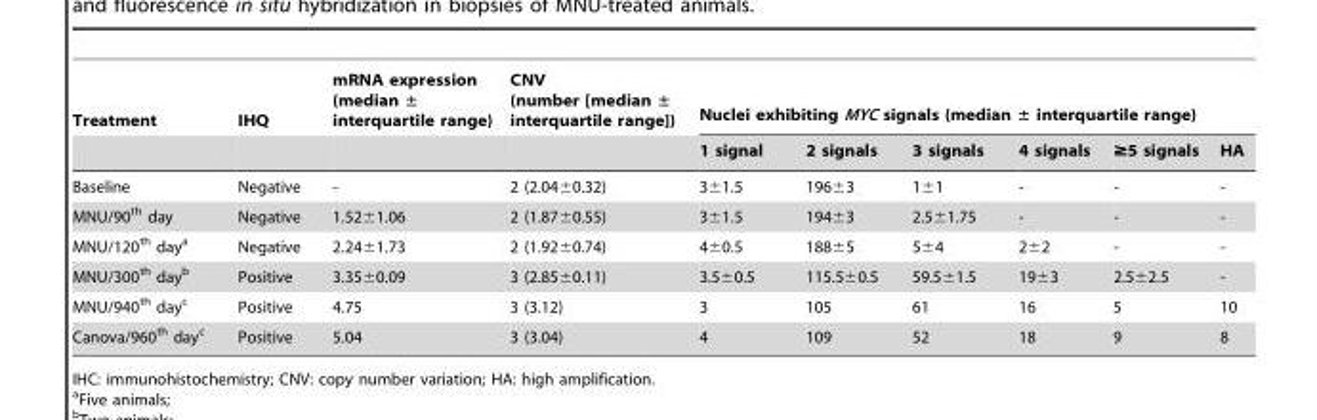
<table><thead><tr><td rowspan="2">Treatment</td><td rowspan="2">IHQ</td><td rowspan="2">mRNA expression (median ± interquartile range)</td><td rowspan="2">CNV (number [median ± interquartile range])</td><td colspan="6">Nuclei exhibiting MYC signals (median ± interquartile range)</td></tr><tr><td>1 signal</td><td>2 signals</td><td>3 signals</td><td>4 signals</td><td>≥5 signals</td><td>HA</td></tr></thead><tbody><tr><td>Baseline</td><td>Negative</td><td>-</td><td>2 (2.04±0.32)</td><td>3±1.5</td><td>196±3</td><td>1±1</td><td>-</td><td>-</td><td>-</td></tr><tr><td>MNU/90<sup>th</sup> day</td><td>Negative</td><td>1.52±1.06</td><td>2 (1.87±0.55)</td><td>3±1.5</td><td>194±3</td><td>2.5±1.75</td><td>-</td><td>-</td><td>-</td></tr><tr><td>MNU/120<sup>th</sup> day<sup>a</sup></td><td>Negative</td><td>2.24±1.73</td><td>2 (1.92±0.74)</td><td>4±0.5</td><td>188±5</td><td>5±4</td><td>2±2</td><td>-</td><td>-</td></tr><tr><td>MNU/300<sup>th</sup> day<sup>b</sup></td><td>Positive</td><td>3.35±0.09</td><td>3 (2.85±0.11)</td><td>3.5±0.5</td><td>115.5±0.5</td><td>59.5±1.5</td><td>19±3</td><td>2.5±2.5</td><td>-</td></tr><tr><td>MNU/940<sup>th</sup> day<sup>c</sup></td><td>Positive</td><td>4.75</td><td>3 (3.12)</td><td>3</td><td>105</td><td>61</td><td>16</td><td>5</td><td>10</td></tr><tr><td>Canova/960<sup>th</sup> day<sup>c</sup></td><td>Positive</td><td>5.04</td><td>3 (3.04)</td><td>4</td><td>109</td><td>52</td><td>18</td><td>9</td><td>8</td></tr></tbody></table>